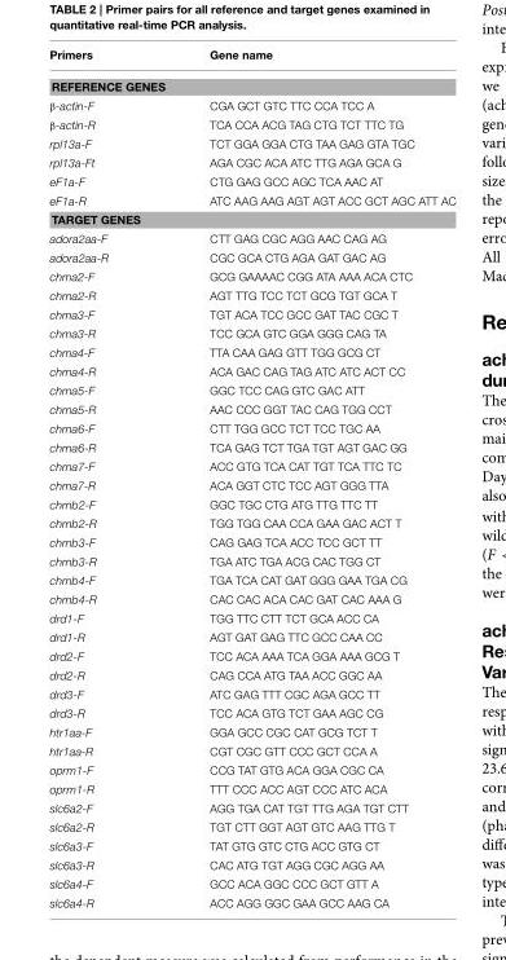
<table><thead><tr><td>Primers</td><td>Gene name</td></tr></thead><tbody><tr><td colspan="2">REFERENCE GENES</td></tr><tr><td>β-actin-F</td><td>CGA GCT GTC TTC CCA TCC A</td></tr><tr><td>β-actin-R</td><td>TCA CCA ACG TAG CTG TCT TTC TG</td></tr><tr><td>rpl13a-F</td><td>TCT GGA GGA CTG TAA GAG GTA TGC</td></tr><tr><td>rpl13a-Ft</td><td>AGA CGC ACA ATC TTG AGA GCA G</td></tr><tr><td>eF1a-F</td><td>CTG GAG GCC AGC TCA AAC AT</td></tr><tr><td>eF1a-R</td><td>ATC AAG AAG AGT AGT ACC GCT AGC ATT AC</td></tr><tr><td colspan="2">TARGET GENES</td></tr><tr><td>adora2aa-F</td><td>CTT GAG CGC AGG AAC CAG AG</td></tr><tr><td>adora2aa-R</td><td>CGC GCA CTG AGA GAT GAC AG</td></tr><tr><td>chma2-F</td><td>GCG GAAAAC CGG ATA AAA ACA CTC</td></tr><tr><td>chrna2-R</td><td>AGT TTG TCC TCT GCG TGT GCA T</td></tr><tr><td>chma3-F</td><td>TGT ACA TCC GCC GAT TAC CGC T</td></tr><tr><td>chma3-R</td><td>TCC GCA GTC GGA GGG CAG TA</td></tr><tr><td>chma4-F</td><td>TTA CAA GAG GTT TGG GCG CT</td></tr><tr><td>chrna4-R</td><td>ACA GAC CAG TAG ATC ATC ACT CC</td></tr><tr><td>chrna5-F</td><td>GGC TCC CAG GTC GAC ATT</td></tr><tr><td>chrna5-R</td><td>AAC CCC GGT TAC CAG TGG CCT</td></tr><tr><td>chrna6-F</td><td>CTT TGG GCC TCT TCC TGC AA</td></tr><tr><td>chrna6-R</td><td>TCA GAG TCT TGA TGT AGT GAC GG</td></tr><tr><td>chrna7-F</td><td>ACC GTG TCA CAT TGT TCA TTC TC</td></tr><tr><td>chma7-R</td><td>ACA GGT CTC TCC AGT GGG TTA</td></tr><tr><td>chrnb2-F</td><td>GGC TGC CTG ATG TTG TTC TT</td></tr><tr><td>chrnb2-R</td><td>TGG TGG CAA CCA GAA GAC ACT T</td></tr><tr><td>chrnb3-F</td><td>CAG GAG TCA ACC TCC GCT TT</td></tr><tr><td>chrnb3-R</td><td>TGA ATC TGA ACG CAC TGG CT</td></tr><tr><td>chrnb4-F</td><td>TGA TCA CAT GAT GGG GAA TGA CG</td></tr><tr><td>chrnb4-R</td><td>CAC CAC ACA CAC GAT CAC AAA G</td></tr><tr><td>drd1-F</td><td>TGG TTC CTT TCT GCA ACC CA</td></tr><tr><td>drd1-R</td><td>AGT GAT GAG TTC GCC CAA CC</td></tr><tr><td>drd2-F</td><td>TCC ACA AAA TCA GGA AAA GCG T</td></tr><tr><td>drd2-R</td><td>CAG CCA ATG TAA ACC GGC AA</td></tr><tr><td>drd3-F</td><td>ATC GAG TTT CGC AGA GCC TT</td></tr><tr><td>drd3-R</td><td>TCC ACA GTG TCT GAA AGC CG</td></tr><tr><td>htr1aa-F</td><td>GGA GCC CGC CAT GCG TCT T</td></tr><tr><td>htr1aa-R</td><td>CGT CGC GTT CCC GCT CCA A</td></tr><tr><td>oprm1-F</td><td>CCG TAT GTG ACA GGA CGC CA</td></tr><tr><td>oprm1-R</td><td>TTT CCC ACC AGT CCC ATC ACA</td></tr><tr><td>slc6a2-F</td><td>AGG TGA CAT TGT TTG AGA TGT CTT</td></tr><tr><td>slc6a2-R</td><td>TGT CTT GGT AGT GTC AAG TTG T</td></tr><tr><td>slc6a3-F</td><td>TAT GTG GTC CTG ACC GTG CT</td></tr><tr><td>slc6a3-R</td><td>CAC ATG TGT AGG CGC AGG AA</td></tr><tr><td>slc6a4-F</td><td>GCC ACA GGC CCC GCT GTT A</td></tr><tr><td>slc6a4-R</td><td>ACC AGG GGC GAA GCC AAG CA</td></tr></tbody></table>